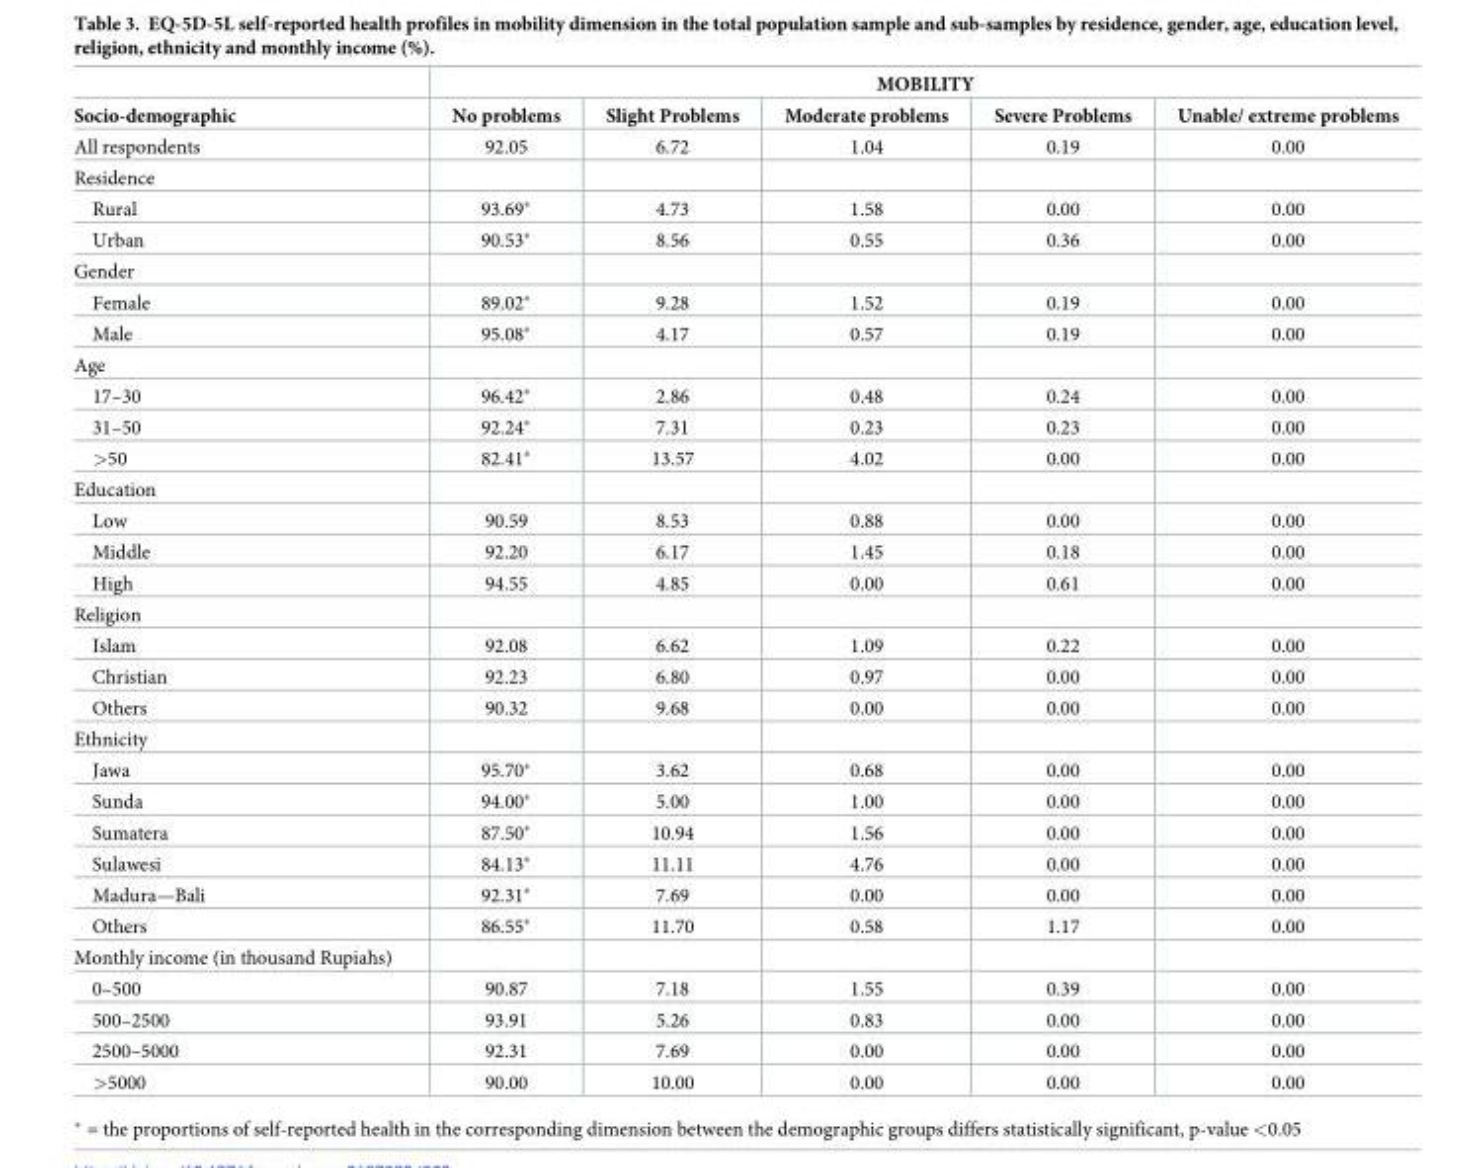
<table><thead><tr><td rowspan="2">Socio-demographic</td><td colspan="5">MOBILITY</td></tr><tr><td>No problems</td><td>Slight Problems</td><td>Moderate problems</td><td>Severe Problems</td><td>Unable/ extreme problems</td></tr></thead><tbody><tr><td>All respondents</td><td>92.05</td><td>6.72</td><td>1.04</td><td>0.19</td><td>0.00</td></tr><tr><td colspan="6">Residence</td></tr><tr><td>Rural</td><td>93.69*</td><td>4.73</td><td>1.58</td><td>0.00</td><td>0.00</td></tr><tr><td>Urban</td><td>90.53*</td><td>8.56</td><td>0.55</td><td>0.36</td><td>0.00</td></tr><tr><td colspan="6">Gender</td></tr><tr><td>Female</td><td>89.02*</td><td>9.28</td><td>1.52</td><td>0.19</td><td>0.00</td></tr><tr><td>Male</td><td>95.08*</td><td>4.17</td><td>0.57</td><td>0.19</td><td>0.00</td></tr><tr><td colspan="6">Age</td></tr><tr><td>17–30</td><td>96.42*</td><td>2.86</td><td>0.48</td><td>0.24</td><td>0.00</td></tr><tr><td>31–50</td><td>92.24*</td><td>7.31</td><td>0.23</td><td>0.23</td><td>0.00</td></tr><tr><td>&gt;50</td><td>82.41*</td><td>13.57</td><td>4.02</td><td>0.00</td><td>0.00</td></tr><tr><td colspan="6">Education</td></tr><tr><td>Low</td><td>90.59</td><td>8.53</td><td>0.88</td><td>0.00</td><td>0.00</td></tr><tr><td>Middle</td><td>92.20</td><td>6.17</td><td>1.45</td><td>0.18</td><td>0.00</td></tr><tr><td>High</td><td>94.55</td><td>4.85</td><td>0.00</td><td>0.61</td><td>0.00</td></tr><tr><td colspan="6">Religion</td></tr><tr><td>Islam</td><td>92.08</td><td>6.62</td><td>1.09</td><td>0.22</td><td>0.00</td></tr><tr><td>Christian</td><td>92.23</td><td>6.80</td><td>0.97</td><td>0.00</td><td>0.00</td></tr><tr><td>Others</td><td>90.32</td><td>9.68</td><td>0.00</td><td>0.00</td><td>0.00</td></tr><tr><td colspan="6">Ethnicity</td></tr><tr><td>Jawa</td><td>95.70*</td><td>3.62</td><td>0.68</td><td>0.00</td><td>0.00</td></tr><tr><td>Sunda</td><td>94.00*</td><td>5.00</td><td>1.00</td><td>0.00</td><td>0.00</td></tr><tr><td>Sumatera</td><td>87.50*</td><td>10.94</td><td>1.56</td><td>0.00</td><td>0.00</td></tr><tr><td>Sulawesi</td><td>84.13*</td><td>11.11</td><td>4.76</td><td>0.00</td><td>0.00</td></tr><tr><td>Madura—Bali</td><td>92.31*</td><td>7.69</td><td>0.00</td><td>0.00</td><td>0.00</td></tr><tr><td>Others</td><td>86.55*</td><td>11.70</td><td>0.58</td><td>1.17</td><td>0.00</td></tr><tr><td colspan="6">Monthly income (in thousand Rupiahs)</td></tr><tr><td>0–500</td><td>90.87</td><td>7.18</td><td>1.55</td><td>0.39</td><td>0.00</td></tr><tr><td>500–2500</td><td>93.91</td><td>5.26</td><td>0.83</td><td>0.00</td><td>0.00</td></tr><tr><td>2500–5000</td><td>92.31</td><td>7.69</td><td>0.00</td><td>0.00</td><td>0.00</td></tr><tr><td>&gt;5000</td><td>90.00</td><td>10.00</td><td>0.00</td><td>0.00</td><td>0.00</td></tr></tbody></table>